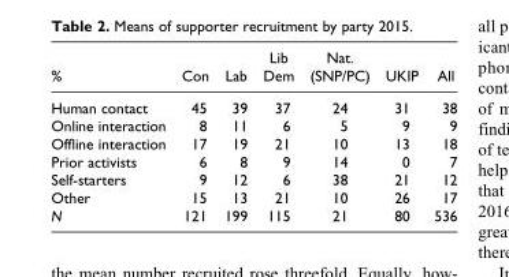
<table><thead><tr><td>%</td><td>Con</td><td>Lab</td><td>Lib Dem</td><td>Nat. (SNP/PC)</td><td>UKIP</td><td>All</td></tr></thead><tbody><tr><td>Human contact</td><td>45</td><td>39</td><td>37</td><td>24</td><td>31</td><td>38</td></tr><tr><td>Online interaction</td><td>8</td><td>11</td><td>6</td><td>5</td><td>9</td><td>9</td></tr><tr><td>Offline interaction</td><td>17</td><td>19</td><td>21</td><td>10</td><td>13</td><td>18</td></tr><tr><td>Prior activists</td><td>6</td><td>8</td><td>9</td><td>14</td><td>0</td><td>7</td></tr><tr><td>Self-starters</td><td>9</td><td>12</td><td>6</td><td>38</td><td>21</td><td>12</td></tr><tr><td>Other</td><td>15</td><td>13</td><td>21</td><td>10</td><td>26</td><td>17</td></tr><tr><td>N</td><td>121</td><td>199</td><td>115</td><td>21</td><td>80</td><td>536</td></tr></tbody></table>